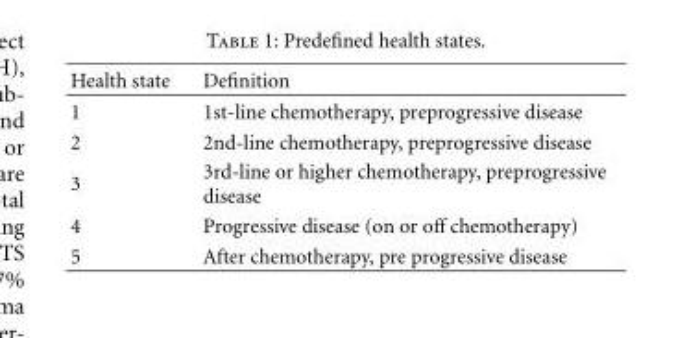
<table><thead><tr><td>Health state</td><td>Definition</td></tr></thead><tbody><tr><td>1</td><td>1st-line chemotherapy, preprogressive disease</td></tr><tr><td>2</td><td>2nd-line chemotherapy, preprogressive disease</td></tr><tr><td>3</td><td>3rd-line or higher chemotherapy, preprogressive disease</td></tr><tr><td>4</td><td>Progressive disease (on or off chemotherapy)</td></tr><tr><td>5</td><td>After chemotherapy, pre progressive disease</td></tr></tbody></table>